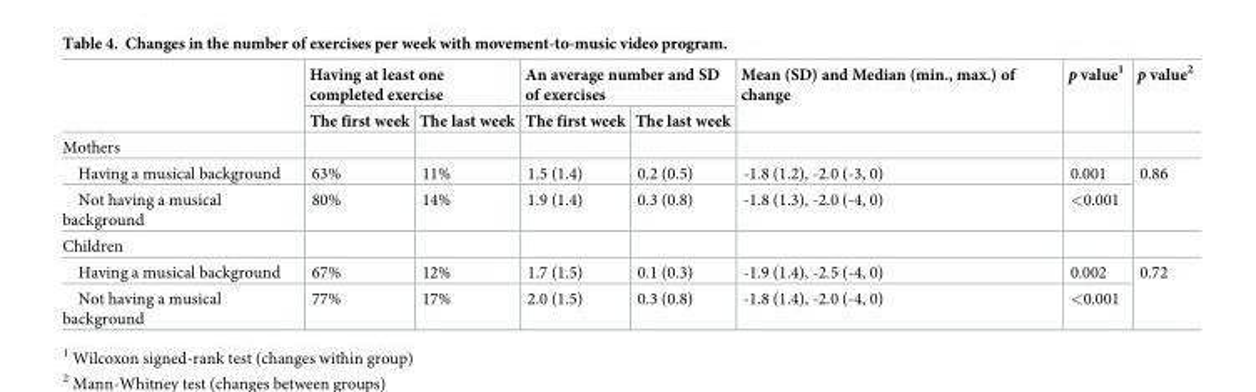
<table><thead><tr><td rowspan="2"></td><td colspan="2">Having at least one completed exercise</td><td colspan="2">An average number and SD of exercises</td><td rowspan="2">Mean (SD) and Median (min., max.) of change</td><td rowspan="2">p value<sup>1</sup></td><td rowspan="2">p value<sup>2</sup></td></tr><tr><td>The first week</td><td>The last week</td><td>The first week</td><td>The last week</td></tr></thead><tbody><tr><td colspan="8">Mothers</td></tr><tr><td>Having a musical background</td><td>63%</td><td>11%</td><td>1.5 (1.4)</td><td>0.2 (0.5)</td><td>-1.8 (1.2), -2.0 (-3, 0)</td><td>0.001</td><td rowspan="2">0.86</td></tr><tr><td>Not having a musical background</td><td>80%</td><td>14%</td><td>1.9 (1.4)</td><td>0.3 (0.8)</td><td>-1.8 (1.3), -2.0 (-4, 0)</td><td>&lt;0.001</td></tr><tr><td colspan="8">Children</td></tr><tr><td>Having a musical background</td><td>67%</td><td>12%</td><td>1.7 (1.5)</td><td>0.1 (0.3)</td><td>-1.9 (1.4), -2.5 (-4, 0)</td><td>0.002</td><td rowspan="2">0.72</td></tr><tr><td>Not having a musical background</td><td>77%</td><td>17%</td><td>2.0 (1.5)</td><td>0.3 (0.8)</td><td>-1.8 (1.4), -2.0 (-4, 0)</td><td>&lt;0.001</td></tr></tbody></table>